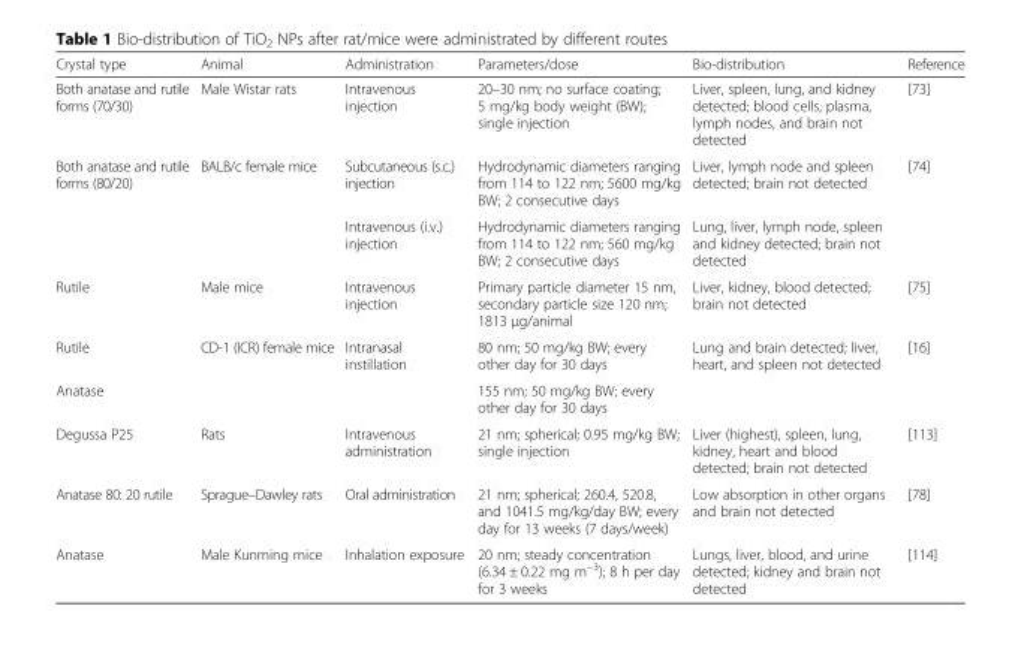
<table><thead><tr><td>Crystal type</td><td>Animal</td><td>Administration</td><td>Parameters/dose</td><td>Bio-distribution</td><td>Reference</td></tr></thead><tbody><tr><td>Both anatase and rutile forms (70/30)</td><td>Male Wistar rats</td><td>Intravenous injection</td><td>20–30 nm; no surface coating; 5 mg/kg body weight (BW); single injection</td><td>Liver, spleen, lung, and kidney detected; blood cells, plasma, lymph nodes, and brain not detected</td><td>[73]</td></tr><tr><td rowspan="2">Both anatase and rutile forms (80/20)</td><td rowspan="2">BALB/c female mice</td><td>Subcutaneous (s.c.) injection</td><td>Hydrodynamic diameters ranging from 114 to 122 nm; 5600 mg/kg BW; 2 consecutive days</td><td>Liver, lymph node and spleen detected; brain not detected</td><td rowspan="2">[74]</td></tr><tr><td>Intravenous (i.v.) injection</td><td>Hydrodynamic diameters ranging from 114 to 122 nm; 560 mg/kg BW; 2 consecutive days</td><td>Lung, liver, lymph node, spleen and kidney detected; brain not detected</td></tr><tr><td>Rutile</td><td>Male mice</td><td>Intravenous injection</td><td>Primary particle diameter 15 nm, secondary particle size 120 nm; 1813 μg/animal</td><td>Liver, kidney, blood detected; brain not detected</td><td>[75]</td></tr><tr><td>Rutile</td><td rowspan="2">CD-1 (ICR) female mice</td><td rowspan="2">Intranasal instillation</td><td>80 nm; 50 mg/kg BW; every other day for 30 days</td><td rowspan="2">Lung and brain detected; liver, heart, and spleen not detected</td><td rowspan="2">[16]</td></tr><tr><td>Anatase</td><td>155 nm; 50 mg/kg BW; every other day for 30 days</td></tr><tr><td>Degussa P25</td><td>Rats</td><td>Intravenous administration</td><td>21 nm; spherical; 0.95 mg/kg BW; single injection</td><td>Liver (highest), spleen, lung, kidney, heart and blood detected; brain not detected</td><td>[113]</td></tr><tr><td>Anatase 80: 20 rutile</td><td>Sprague–Dawley rats</td><td>Oral administration</td><td>21 nm; spherical; 260.4, 520.8, and 1041.5 mg/kg/day BW; every day for 13 weeks (7 days/week)</td><td>Low absorption in other organs and brain not detected</td><td>[78]</td></tr><tr><td>Anatase</td><td>Male Kunming mice</td><td>Inhalation exposure</td><td>20 nm; steady concentration (6.34 ± 0.22 mg m<sup>−3</sup>); 8 h per day for 3 weeks</td><td>Lungs, liver, blood, and urine detected; kidney and brain not detected</td><td>[114]</td></tr></tbody></table>